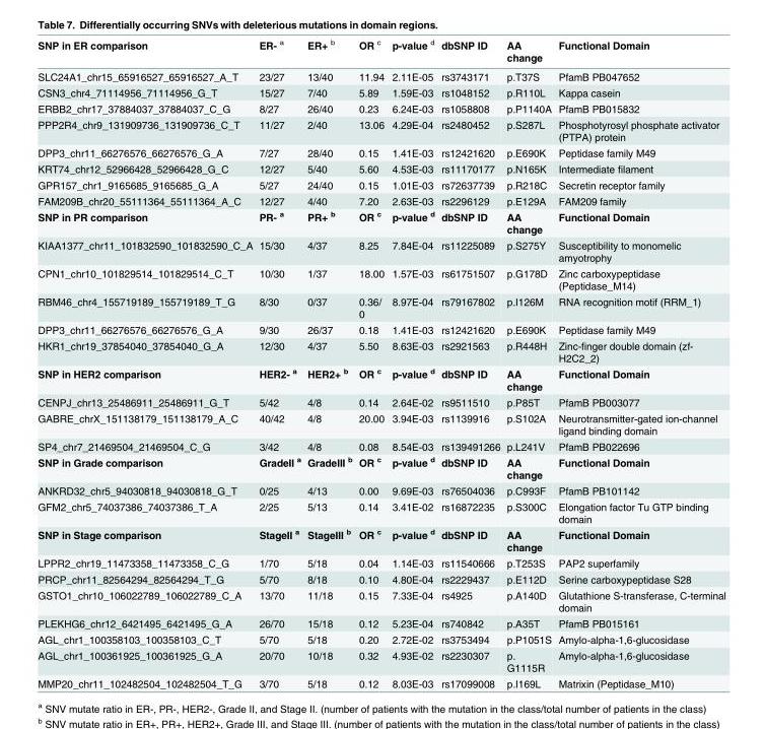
<table><thead><tr><td>SNP in ER comparison</td><td>ER- <sup>a</sup></td><td>ER+ <sup>b</sup></td><td>OR <sup>c</sup></td><td>p-value <sup>d</sup></td><td>dbSNP ID</td><td>AA change</td><td>Functional Domain</td></tr></thead><tbody><tr><td>SLC24A1_chr15_65916527_65916527_A_T</td><td>23/27</td><td>13/40</td><td>11.94</td><td>2.11E-05</td><td>rs3743171</td><td>p.T37S</td><td>PfamB PB047652</td></tr><tr><td>CSN3_chr4_71114956_71114956_G_T</td><td>15/27</td><td>7/40</td><td>5.89</td><td>1.59E-03</td><td>rs1048152</td><td>p.R110L</td><td>Kappa casein</td></tr><tr><td>ERBB2_chr17_37884037_37884037_C_G</td><td>8/27</td><td>26/40</td><td>0.23</td><td>6.24E-03</td><td>rs1058808</td><td>p.P1140A</td><td>PfamB PB015832</td></tr><tr><td>PPP2R4_chr9_131909736_131909736_C_T</td><td>11/27</td><td>2/40</td><td>13.06</td><td>4.29E-04</td><td>rs2480452</td><td>p.S287L</td><td>Phosphotyrosyl phosphate activator (PTPA) protein</td></tr><tr><td>DPP3_chr11_66276576_66276576_G_A</td><td>7/27</td><td>28/40</td><td>0.15</td><td>1.41E-03</td><td>rs12421620</td><td>p.E690K</td><td>Peptidase family M49</td></tr><tr><td>KRT74_chr12_52966428_52966428_G_C</td><td>12/27</td><td>5/40</td><td>5.60</td><td>4.53E-03</td><td>rs11170177</td><td>p.N165K</td><td>Intermediate filament</td></tr><tr><td>GPR157_chr1_9165685_9165685_G_A</td><td>5/27</td><td>24/40</td><td>0.15</td><td>1.01E-03</td><td>rs72637739</td><td>p.R218C</td><td>Secretin receptor family</td></tr><tr><td>FAM209B_chr20_55111364_55111364_A_C</td><td>12/27</td><td>4/40</td><td>7.20</td><td>2.63E-03</td><td>rs2296129</td><td>p.E129A</td><td>FAM209 family</td></tr><tr><td>SNP in PR comparison</td><td>PR- <sup>a</sup></td><td>PR+ <sup>b</sup></td><td>OR <sup>c</sup></td><td>p-value <sup>d</sup></td><td>dbSNP ID</td><td>AA change</td><td>Functional Domain</td></tr><tr><td>KIAA1377_chr11_101832590_101832590_C_A</td><td>15/30</td><td>4/37</td><td>8.25</td><td>7.84E-04</td><td>rs11225089</td><td>p.S275Y</td><td>Susceptibility to monomelic amyotrophy</td></tr><tr><td>CPN1_chr10_101829514_101829514_C_T</td><td>10/30</td><td>1/37</td><td>18.00</td><td>1.57E-03</td><td>rs61751507</td><td>p.G178D</td><td>Zinc carboxypeptidase (Peptidase_M14)</td></tr><tr><td>RBM46_chr4_155719189_155719189_T_G</td><td>8/30</td><td>0/37</td><td>0.36/ 0</td><td>8.97E-04</td><td>rs79167802</td><td>p.I126M</td><td>RNA recognition motif (RRM_1)</td></tr><tr><td>DPP3_chr11_66276576_66276576_G_A</td><td>9/30</td><td>26/37</td><td>0.18</td><td>1.41E-03</td><td>rs12421620</td><td>p.E690K</td><td>Peptidase family M49</td></tr><tr><td>HKR1_chr19_37854040_37854040_G_A</td><td>12/30</td><td>4/37</td><td>5.50</td><td>8.63E-03</td><td>rs2921563</td><td>p.R448H</td><td>Zinc-finger double domain (zf- H2C2_2)</td></tr><tr><td>SNP in HER2 comparison</td><td>HER2- <sup>a</sup></td><td>HER2+ <sup>b</sup></td><td>OR <sup>c</sup></td><td>p-value <sup>d</sup></td><td>dbSNP ID</td><td>AA change</td><td>Functional Domain</td></tr><tr><td>CENPJ_chr13_25486911_25486911_G_T</td><td>5/42</td><td>4/8</td><td>0.14</td><td>2.64E-02</td><td>rs9511510</td><td>p.P85T</td><td>PfamB PB003077</td></tr><tr><td>GABRE_chrX_151138179_151138179_A_C</td><td>40/42</td><td>4/8</td><td>20.00</td><td>3.94E-03</td><td>rs1139916</td><td>p.S102A</td><td>Neurotransmitter-gated ion-channel ligand binding domain</td></tr><tr><td>SP4_chr7_21469504_21469504_C_G</td><td>3/42</td><td>4/8</td><td>0.08</td><td>8.54E-03</td><td>rs139491266</td><td>p.L241V</td><td>PfamB PB022696</td></tr><tr><td>SNP in Grade comparison</td><td>GradeII <sup>a</sup></td><td>GradeIII <sup>b</sup></td><td>OR <sup>c</sup></td><td>p-value <sup>d</sup></td><td>dbSNP ID</td><td>AA change</td><td>Functional Domain</td></tr><tr><td>ANKRD32_chr5_94030818_94030818_G_T</td><td>0/25</td><td>4/13</td><td>0.00</td><td>9.69E-03</td><td>rs76504036</td><td>p.C993F</td><td>PfamB PB101142</td></tr><tr><td>GFM2_chr5_74037386_74037386_T_A</td><td>2/25</td><td>5/13</td><td>0.14</td><td>3.41E-02</td><td>rs16872235</td><td>p.S300C</td><td>Elongation factor Tu GTP binding domain</td></tr><tr><td>SNP in Stage comparison</td><td>StageII <sup>a</sup></td><td>StageIII <sup>b</sup></td><td>OR <sup>c</sup></td><td>p-value <sup>d</sup></td><td>dbSNP ID</td><td>AA change</td><td>Functional Domain</td></tr><tr><td>LPPR2_chr19_11473358_11473358_C_G</td><td>1/70</td><td>5/18</td><td>0.04</td><td>1.14E-03</td><td>rs11540666</td><td>p.T253S</td><td>PAP2 superfamily</td></tr><tr><td>PRCP_chr11_82564294_82564294_T_G</td><td>5/70</td><td>8/18</td><td>0.10</td><td>4.80E-04</td><td>rs2229437</td><td>p.E112D</td><td>Serine carboxypeptidase S28</td></tr><tr><td>GSTO1_chr10_106022789_106022789_C_A</td><td>13/70</td><td>11/18</td><td>0.15</td><td>7.33E-04</td><td>rs4925</td><td>p.A140D</td><td>Glutathione S-transferase, C-terminal domain</td></tr><tr><td>PLEKHG6_chr12_6421495_6421495_G_A</td><td>26/70</td><td>15/18</td><td>0.12</td><td>5.23E-04</td><td>rs740842</td><td>p.A35T</td><td>PfamB PB015161</td></tr><tr><td>AGL_chr1_100358103_100358103_C_T</td><td>5/70</td><td>5/18</td><td>0.20</td><td>2.72E-02</td><td>rs3753494</td><td>p.P1051S</td><td>Amylo-alpha-1,6-glucosidase</td></tr><tr><td>AGL_chr1_100361925_100361925_G_A</td><td>20/70</td><td>10/18</td><td>0.32</td><td>4.93E-02</td><td>rs2230307</td><td>p. G1115R</td><td>Amylo-alpha-1,6-glucosidase</td></tr><tr><td>MMP20_chr11_102482504_102482504_T_G</td><td>3/70</td><td>5/18</td><td>0.12</td><td>8.03E-03</td><td>rs17099008</td><td>p.I169L</td><td>Matrixin (Peptidase_M10)</td></tr></tbody></table>